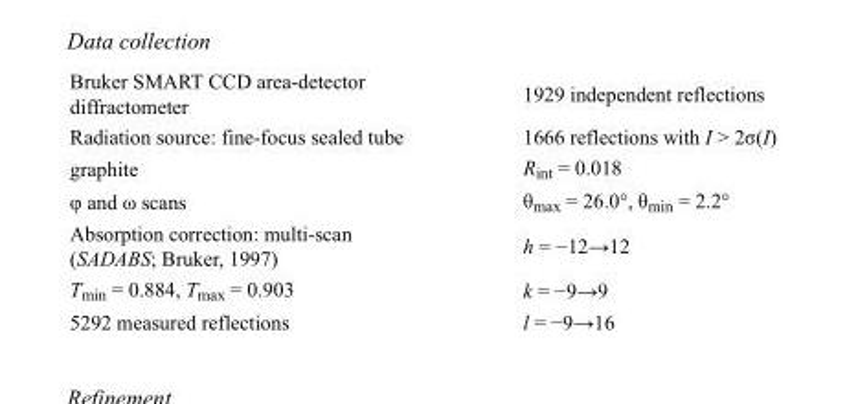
<table><tbody><tr><td>Bruker SMART CCD area-detector diffractometer</td><td>1929 independent reflections</td></tr><tr><td>Radiation source: fine-focus sealed tube</td><td>1666 reflections with I &gt; 2σ(I)</td></tr><tr><td>graphite</td><td>R<sub>int</sub> = 0.018</td></tr><tr><td>φ and ω scans</td><td>θ<sub>max</sub> = 26.0°, θ<sub>min</sub> = 2.2°</td></tr><tr><td>Absorption correction: multi-scan (SADABS; Bruker, 1997)</td><td>h = −12→12</td></tr><tr><td>T<sub>min</sub> = 0.884, T<sub>max</sub> = 0.903</td><td>k = −9→9</td></tr><tr><td>5292 measured reflections</td><td>l = −9→16</td></tr></tbody></table>